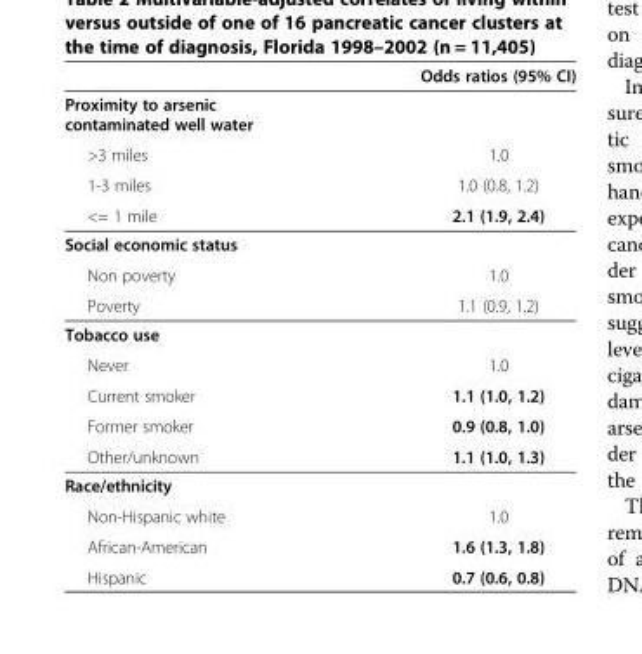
<table><thead><tr><td></td><td>Odds ratios (95% CI)</td></tr></thead><tbody><tr><td colspan="2">Proximity to arsenic contaminated well water</td></tr><tr><td>&gt;3 miles</td><td>1.0</td></tr><tr><td>1-3 miles</td><td>1.0 (0.8, 1.2)</td></tr><tr><td>&lt;= 1 mile</td><td>2.1 (1.9, 2.4)</td></tr><tr><td colspan="2">Social economic status</td></tr><tr><td>Non poverty</td><td>1.0</td></tr><tr><td>Poverty</td><td>1.1 (0.9, 1.2)</td></tr><tr><td colspan="2">Tobacco use</td></tr><tr><td>Never</td><td>1.0</td></tr><tr><td>Current smoker</td><td>1.1 (1.0, 1.2)</td></tr><tr><td>Former smoker</td><td>0.9 (0.8, 1.0)</td></tr><tr><td>Other/unknown</td><td>1.1 (1.0, 1.3)</td></tr><tr><td colspan="2">Race/ethnicity</td></tr><tr><td>Non-Hispanic white</td><td>1.0</td></tr><tr><td>African-American</td><td>1.6 (1.3, 1.8)</td></tr><tr><td>Hispanic</td><td>0.7 (0.6, 0.8)</td></tr></tbody></table>